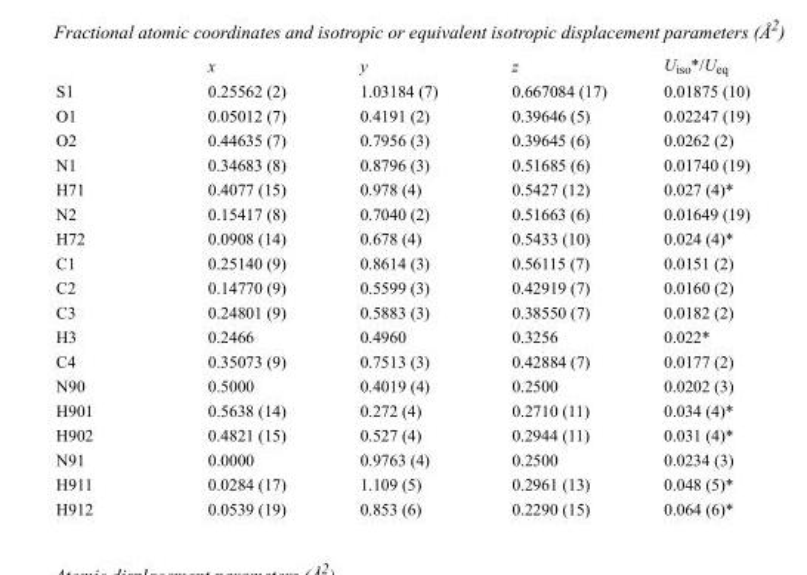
<table><thead><tr><td></td><td>x</td><td>y</td><td>z</td><td>U<sub>iso</sub>*/U<sub>eq</sub></td></tr></thead><tbody><tr><td>S1</td><td>0.25562 (2)</td><td>1.03184 (7)</td><td>0.667084 (17)</td><td>0.01875 (10)</td></tr><tr><td>O1</td><td>0.05012 (7)</td><td>0.4191 (2)</td><td>0.39646 (5)</td><td>0.02247 (19)</td></tr><tr><td>O2</td><td>0.44635 (7)</td><td>0.7956 (3)</td><td>0.39645 (6)</td><td>0.0262 (2)</td></tr><tr><td>N1</td><td>0.34683 (8)</td><td>0.8796 (3)</td><td>0.51685 (6)</td><td>0.01740 (19)</td></tr><tr><td>H71</td><td>0.4077 (15)</td><td>0.978 (4)</td><td>0.5427 (12)</td><td>0.027 (4)*</td></tr><tr><td>N2</td><td>0.15417 (8)</td><td>0.7040 (2)</td><td>0.51663 (6)</td><td>0.01649 (19)</td></tr><tr><td>H72</td><td>0.0908 (14)</td><td>0.678 (4)</td><td>0.5433 (10)</td><td>0.024 (4)*</td></tr><tr><td>C1</td><td>0.25140 (9)</td><td>0.8614 (3)</td><td>0.56115 (7)</td><td>0.0151 (2)</td></tr><tr><td>C2</td><td>0.14770 (9)</td><td>0.5599 (3)</td><td>0.42919 (7)</td><td>0.0160 (2)</td></tr><tr><td>C3</td><td>0.24801 (9)</td><td>0.5883 (3)</td><td>0.38550 (7)</td><td>0.0182 (2)</td></tr><tr><td>H3</td><td>0.2466</td><td>0.4960</td><td>0.3256</td><td>0.022*</td></tr><tr><td>C4</td><td>0.35073 (9)</td><td>0.7513 (3)</td><td>0.42884 (7)</td><td>0.0177 (2)</td></tr><tr><td>N90</td><td>0.5000</td><td>0.4019 (4)</td><td>0.2500</td><td>0.0202 (3)</td></tr><tr><td>H901</td><td>0.5638 (14)</td><td>0.272 (4)</td><td>0.2710 (11)</td><td>0.034 (4)*</td></tr><tr><td>H902</td><td>0.4821 (15)</td><td>0.527 (4)</td><td>0.2944 (11)</td><td>0.031 (4)*</td></tr><tr><td>N91</td><td>0.0000</td><td>0.9763 (4)</td><td>0.2500</td><td>0.0234 (3)</td></tr><tr><td>H911</td><td>0.0284 (17)</td><td>1.109 (5)</td><td>0.2961 (13)</td><td>0.048 (5)*</td></tr><tr><td>H912</td><td>0.0539 (19)</td><td>0.853 (6)</td><td>0.2290 (15)</td><td>0.064 (6)*</td></tr></tbody></table>